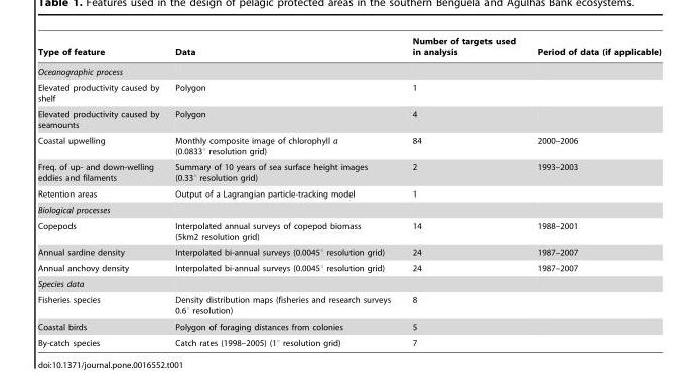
<table><thead><tr><td>Type of feature</td><td>Data</td><td>Number of targets used in analysis</td><td>Period of data (if applicable)</td></tr></thead><tbody><tr><td colspan="4">Oceanographic process</td></tr><tr><td>Elevated productivity caused by shelf</td><td>Polygon</td><td>1</td><td></td></tr><tr><td>Elevated productivity caused by seamounts</td><td>Polygon</td><td>4</td><td></td></tr><tr><td>Coastal upwelling</td><td>Monthly composite image of chlorophyll a (0.0833° resolution grid)</td><td>84</td><td>2000–2006</td></tr><tr><td>Freq. of up- and down-welling eddies and filaments</td><td>Summary of 10 years of sea surface height images (0.33° resolution grid)</td><td>2</td><td>1993–2003</td></tr><tr><td>Retention areas</td><td>Output of a Lagrangian particle-tracking model</td><td>1</td><td></td></tr><tr><td colspan="4">Biological processes</td></tr><tr><td>Copepods</td><td>Interpolated annual surveys of copepod biomass (5km2 resolution grid)</td><td>14</td><td>1988–2001</td></tr><tr><td>Annual sardine density</td><td>Interpolated bi-annual surveys (0.0045° resolution grid)</td><td>24</td><td>1987–2007</td></tr><tr><td>Annual anchovy density</td><td>Interpolated bi-annual surveys (0.0045° resolution grid)</td><td>24</td><td>1987–2007</td></tr><tr><td colspan="4">Species data</td></tr><tr><td>Fisheries species</td><td>Density distribution maps (fisheries and research surveys 0.6° resolution)</td><td>8</td><td></td></tr><tr><td>Coastal birds</td><td>Polygon of foraging distances from colonies</td><td>5</td><td></td></tr><tr><td>By-catch species</td><td>Catch rates (1998–2005) (1° resolution grid)</td><td>7</td><td></td></tr></tbody></table>